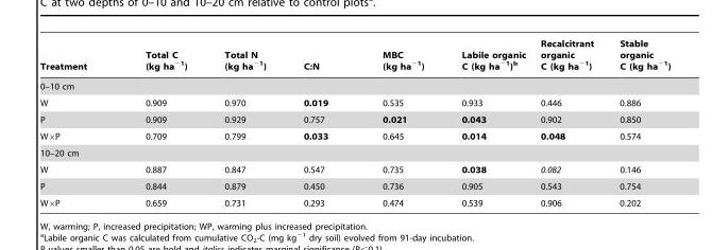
<table><thead><tr><td>Treatment</td><td>Total C (kg ha<sup>−1</sup>)</td><td>Total N (kg ha<sup>−1</sup>)</td><td>C:N</td><td>MBC (kg ha<sup>−1</sup>)</td><td>Labile organic C (kg ha<sup>−1</sup>)<sup>b</sup></td><td>Recalcitrant organic C (kg ha<sup>−1</sup>)</td><td>Stable organic C (kg ha<sup>−1</sup>)</td></tr></thead><tbody><tr><td colspan="8">0–10 cm</td></tr><tr><td>W</td><td>0.909</td><td>0.970</td><td>0.019</td><td>0.535</td><td>0.933</td><td>0.446</td><td>0.886</td></tr><tr><td>P</td><td>0.909</td><td>0.929</td><td>0.757</td><td>0.021</td><td>0.043</td><td>0.902</td><td>0.850</td></tr><tr><td>W×P</td><td>0.709</td><td>0.799</td><td>0.033</td><td>0.645</td><td>0.014</td><td>0.048</td><td>0.574</td></tr><tr><td colspan="8">10–20 cm</td></tr><tr><td>W</td><td>0.887</td><td>0.847</td><td>0.547</td><td>0.735</td><td>0.038</td><td>0.082</td><td>0.146</td></tr><tr><td>P</td><td>0.844</td><td>0.879</td><td>0.450</td><td>0.736</td><td>0.905</td><td>0.543</td><td>0.754</td></tr><tr><td>W×P</td><td>0.659</td><td>0.731</td><td>0.293</td><td>0.474</td><td>0.539</td><td>0.906</td><td>0.202</td></tr></tbody></table>